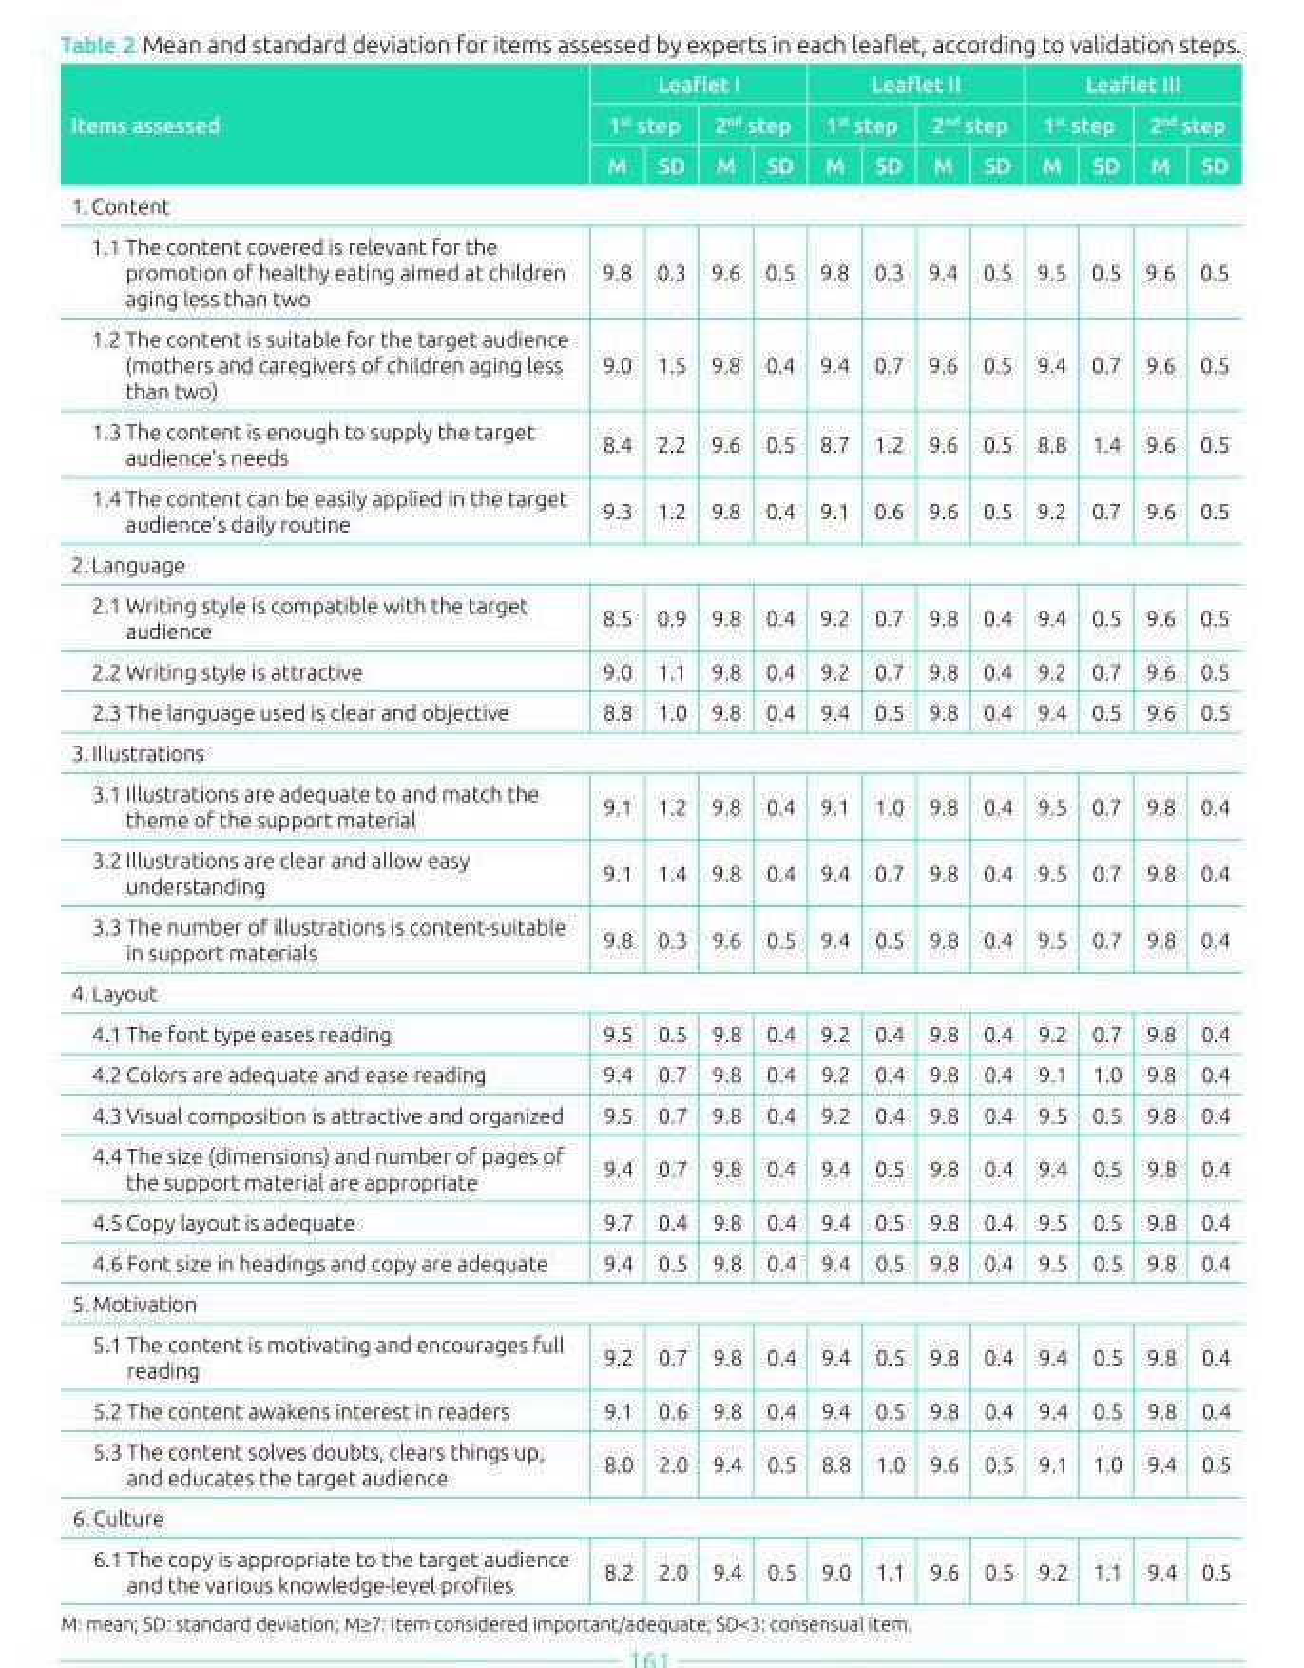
<table><thead><tr><td rowspan="3">Items assessed</td><td colspan="4">Leaflet I</td><td colspan="4">Leaflet II</td><td colspan="4">Leaflet III</td></tr><tr><td colspan="2">1<sup>st</sup> step</td><td colspan="2">2<sup>nd</sup> step</td><td colspan="2">1<sup>st</sup> step</td><td colspan="2">2<sup>nd</sup> step</td><td colspan="2">1<sup>st</sup> step</td><td colspan="2">2<sup>nd</sup> step</td></tr><tr><td>M</td><td>SD</td><td>M</td><td>SD</td><td>M</td><td>SD</td><td>M</td><td>SD</td><td>M</td><td>SD</td><td>M</td><td>SD</td></tr></thead><tbody><tr><td colspan="13">1. Content</td></tr><tr><td>1.1 The content covered is relevant for the promotion of healthy eating aimed at children aging less than two</td><td>9.8</td><td>0.3</td><td>9.6</td><td>0.5</td><td>9.8</td><td>0.3</td><td>9.4</td><td>0.5</td><td>9.5</td><td>0.5</td><td>9.6</td><td>0.5</td></tr><tr><td>1.2 The content is suitable for the target audience (mothers and caregivers of children aging less than two)</td><td>9.0</td><td>1.5</td><td>9.8</td><td>0.4</td><td>9.4</td><td>0.7</td><td>9.6</td><td>0.5</td><td>9.4</td><td>0.7</td><td>9.6</td><td>0.5</td></tr><tr><td>1.3 The content is enough to supply the target audience’s needs</td><td>8.4</td><td>2.2</td><td>9.6</td><td>0.5</td><td>8.7</td><td>1.2</td><td>9.6</td><td>0.5</td><td>8.8</td><td>1.4</td><td>9.6</td><td>0.5</td></tr><tr><td>1.4 The content can be easily applied in the target audience’s daily routine</td><td>9.3</td><td>1.2</td><td>9.8</td><td>0.4</td><td>9.1</td><td>0.6</td><td>9.6</td><td>0.5</td><td>9.2</td><td>0.7</td><td>9.6</td><td>0.5</td></tr><tr><td colspan="13">2. Language</td></tr><tr><td>2.1 Writing style is compatible with the target audience</td><td>8.5</td><td>0.9</td><td>9.8</td><td>0.4</td><td>9.2</td><td>0.7</td><td>9.8</td><td>0.4</td><td>9.4</td><td>0.5</td><td>9.6</td><td>0.5</td></tr><tr><td>2.2 Writing style is attractive</td><td>9.0</td><td>1.1</td><td>9.8</td><td>0.4</td><td>9.2</td><td>0.7</td><td>9.8</td><td>0.4</td><td>9.2</td><td>0.7</td><td>9.6</td><td>0.5</td></tr><tr><td>2.3 The language used is clear and objective</td><td>8.8</td><td>1.0</td><td>9.8</td><td>0.4</td><td>9.4</td><td>0.5</td><td>9.8</td><td>0.4</td><td>9.4</td><td>0.5</td><td>9.6</td><td>0.5</td></tr><tr><td colspan="13">3. Illustrations</td></tr><tr><td>3.1 Illustrations are adequate to and match the theme of the support material</td><td>9.1</td><td>1.2</td><td>9.8</td><td>0.4</td><td>9.1</td><td>1.0</td><td>9.8</td><td>0.4</td><td>9.5</td><td>0.7</td><td>9.8</td><td>0.4</td></tr><tr><td>3.2 Illustrations are clear and allow easy understanding</td><td>9.1</td><td>1.4</td><td>9.8</td><td>0.4</td><td>9.4</td><td>0.7</td><td>9.8</td><td>0.4</td><td>9.5</td><td>0.7</td><td>9.8</td><td>0.4</td></tr><tr><td>3.3 The number of illustrations is content-suitable in support materials</td><td>9.8</td><td>0.3</td><td>9.6</td><td>0.5</td><td>9.4</td><td>0.5</td><td>9.8</td><td>0.4</td><td>9.5</td><td>0.7</td><td>9.8</td><td>0.4</td></tr><tr><td colspan="13">4. Layout</td></tr><tr><td>4.1 The font type eases reading</td><td>9.5</td><td>0.5</td><td>9.8</td><td>0.4</td><td>9.2</td><td>0.4</td><td>9.8</td><td>0.4</td><td>9.2</td><td>0.7</td><td>9.8</td><td>0.4</td></tr><tr><td>4.2 Colors are adequate and ease reading</td><td>9.4</td><td>0.7</td><td>9.8</td><td>0.4</td><td>9.2</td><td>0.4</td><td>9.8</td><td>0.4</td><td>9.1</td><td>1.0</td><td>9.8</td><td>0.4</td></tr><tr><td>4.3 Visual composition is attractive and organized</td><td>9.5</td><td>0.7</td><td>9.8</td><td>0.4</td><td>9.2</td><td>0.4</td><td>9.8</td><td>0.4</td><td>9.5</td><td>0.5</td><td>9.8</td><td>0.4</td></tr><tr><td>4.4 The size (dimensions) and number of pages of the support material are appropriate</td><td>9.4</td><td>0.7</td><td>9.8</td><td>0.4</td><td>9.4</td><td>0.5</td><td>9.8</td><td>0.4</td><td>9.4</td><td>0.5</td><td>9.8</td><td>0.4</td></tr><tr><td>4.5 Copy layout is adequate</td><td>9.7</td><td>0.4</td><td>9.8</td><td>0.4</td><td>9.4</td><td>0.5</td><td>9.8</td><td>0.4</td><td>9.5</td><td>0.5</td><td>9.8</td><td>0.4</td></tr><tr><td>4.6 Font size in headings and copy are adequate</td><td>9.4</td><td>0.5</td><td>9.8</td><td>0.4</td><td>9.4</td><td>0.5</td><td>9.8</td><td>0.4</td><td>9.5</td><td>0.5</td><td>9.8</td><td>0.4</td></tr><tr><td colspan="13">5. Motivation</td></tr><tr><td>5.1 The content is motivating and encourages full reading</td><td>9.2</td><td>0.7</td><td>9.8</td><td>0.4</td><td>9.4</td><td>0.5</td><td>9.8</td><td>0.4</td><td>9.4</td><td>0.5</td><td>9.8</td><td>0.4</td></tr><tr><td>5.2 The content awakens interest in readers</td><td>9.1</td><td>0.6</td><td>9.8</td><td>0.4</td><td>9.4</td><td>0.5</td><td>9.8</td><td>0.4</td><td>9.4</td><td>0.5</td><td>9.8</td><td>0.4</td></tr><tr><td>5.3 The content solves doubts, clears things up, and educates the target audience</td><td>8.0</td><td>2.0</td><td>9.4</td><td>0.5</td><td>8.8</td><td>1.0</td><td>9.6</td><td>0.5</td><td>9.1</td><td>1.0</td><td>9.4</td><td>0.5</td></tr><tr><td colspan="13">6. Culture</td></tr><tr><td>6.1 The copy is appropriate to the target audience and the various knowledge-level profiles</td><td>8.2</td><td>2.0</td><td>9.4</td><td>0.5</td><td>9.0</td><td>1.1</td><td>9.6</td><td>0.5</td><td>9.2</td><td>1.1</td><td>9.4</td><td>0.5</td></tr></tbody></table>